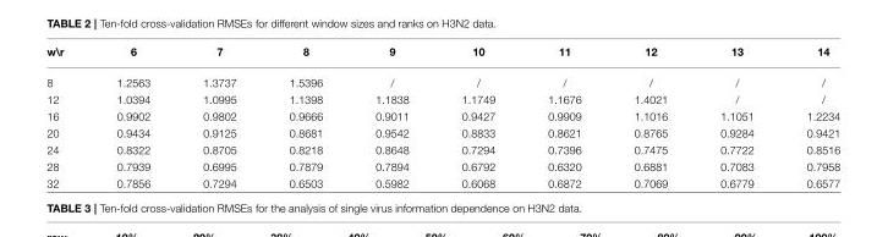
<table><thead><tr><td>w\r</td><td>6</td><td>7</td><td>8</td><td>9</td><td>10</td><td>11</td><td>12</td><td>13</td><td>14</td></tr></thead><tbody><tr><td>8</td><td>1.2563</td><td>1.3737</td><td>1.5396</td><td>/</td><td>/</td><td>/</td><td>/</td><td>/</td><td>/</td></tr><tr><td>12</td><td>1.0394</td><td>1.0995</td><td>1.1398</td><td>1.1838</td><td>1.1749</td><td>1.1676</td><td>1.4021</td><td>/</td><td>/</td></tr><tr><td>16</td><td>0.9902</td><td>0.9802</td><td>0.9666</td><td>0.9011</td><td>0.9427</td><td>0.9909</td><td>1.1016</td><td>1.1051</td><td>1.2234</td></tr><tr><td>20</td><td>0.9434</td><td>0.9125</td><td>0.8681</td><td>0.9542</td><td>0.8833</td><td>0.8621</td><td>0.8765</td><td>0.9284</td><td>0.9421</td></tr><tr><td>24</td><td>0.8322</td><td>0.8705</td><td>0.8218</td><td>0.8648</td><td>0.7294</td><td>0.7396</td><td>0.7475</td><td>0.7722</td><td>0.8516</td></tr><tr><td>28</td><td>0.7939</td><td>0.6995</td><td>0.7879</td><td>0.7894</td><td>0.6792</td><td>0.6320</td><td>0.6881</td><td>0.7083</td><td>0.7958</td></tr><tr><td>32</td><td>0.7856</td><td>0.7294</td><td>0.6503</td><td>0.5982</td><td>0.6068</td><td>0.6872</td><td>0.7069</td><td>0.6779</td><td>0.6577</td></tr></tbody></table>